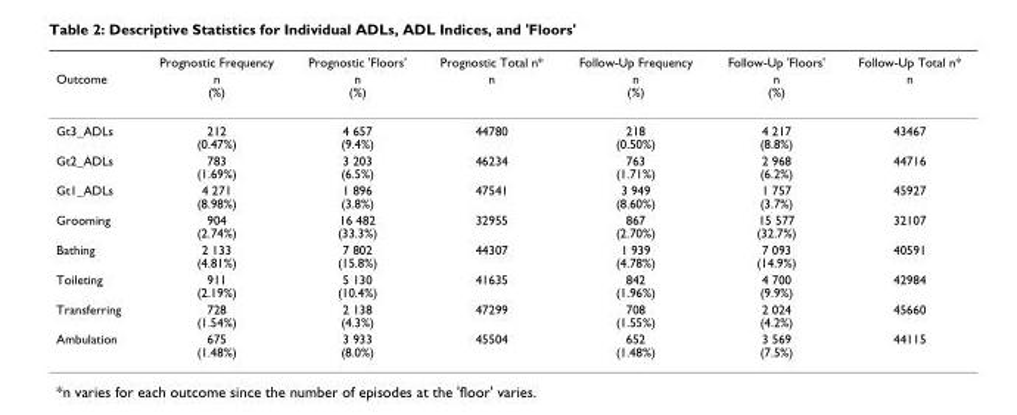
<table><thead><tr><td rowspan="2">Outcome</td><td rowspan="2">Prognostic Frequency n (%)</td><td rowspan="2">Prognostic &#x27;Floors&#x27; n (%)</td><td rowspan="2">Prognostic Total n* n</td><td rowspan="2">Follow-Up Frequency n (%)</td><td rowspan="2">Follow-Up &#x27;Floors&#x27; n (%)</td><td rowspan="2">Follow-Up Total n* n</td></tr><tr></tr></thead><tbody><tr><td>Gt3_ADLs</td><td>212 (0.47%)</td><td>4 657 (9.4%)</td><td>44780</td><td>218 (0.50%)</td><td>4 217 (8.8%)</td><td>43467</td></tr><tr><td>Gt2_ADLs</td><td>783 (1.69%)</td><td>3 203 (6.5%)</td><td>46234</td><td>763 (1.71%)</td><td>2 968 (6.2%)</td><td>44716</td></tr><tr><td>Gt1_ADLs</td><td>4 271 (8.98%)</td><td>1 896 (3.8%)</td><td>47541</td><td>3 949 (8.60%)</td><td>1 757 (3.7%)</td><td>45927</td></tr><tr><td>Grooming</td><td>904 (2.74%)</td><td>16 482 (33.3%)</td><td>32955</td><td>867 (2.70%)</td><td>15 577 (32.7%)</td><td>32107</td></tr><tr><td>Bathing</td><td>2 133 (4.81%)</td><td>7 802 (15.8%)</td><td>44307</td><td>1 939 (4.78%)</td><td>7 093 (14.9%)</td><td>40591</td></tr><tr><td>Toileting</td><td>911 (2.19%)</td><td>5 130 (10.4%)</td><td>41635</td><td>842 (1.96%)</td><td>4 700 (9.9%)</td><td>42984</td></tr><tr><td>Transferring</td><td>728 (1.54%)</td><td>2 138 (4.3%)</td><td>47299</td><td>708 (1.55%)</td><td>2 024 (4.2%)</td><td>45660</td></tr><tr><td>Ambulation</td><td>675 (1.48%)</td><td>3 933 (8.0%)</td><td>45504</td><td>652 (1.48%)</td><td>3 569 (7.5%)</td><td>44115</td></tr></tbody></table>